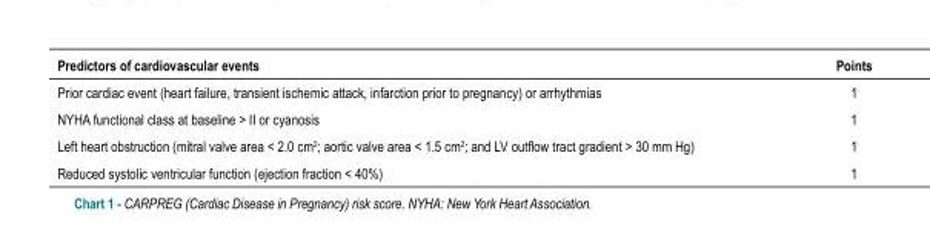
<table><thead><tr><td>Predictors of cardiovascular events</td><td>Points</td></tr></thead><tbody><tr><td>Prior cardiac event (heart failure, transient ischemic attack, infarction prior to pregnancy) or arrhythmias</td><td>1</td></tr><tr><td>NYHA functional class at baseline &gt; II or cyanosis</td><td>1</td></tr><tr><td>Left heart obstruction (mitral valve area &lt; 2.0 cm2; aortic valve area &lt; 1.5 cm2; and LV outflow tract gradient &gt; 30 mm Hg)</td><td>1</td></tr><tr><td>Reduced systolic ventricular function (ejection fraction &lt; 40%)</td><td>1</td></tr></tbody></table>